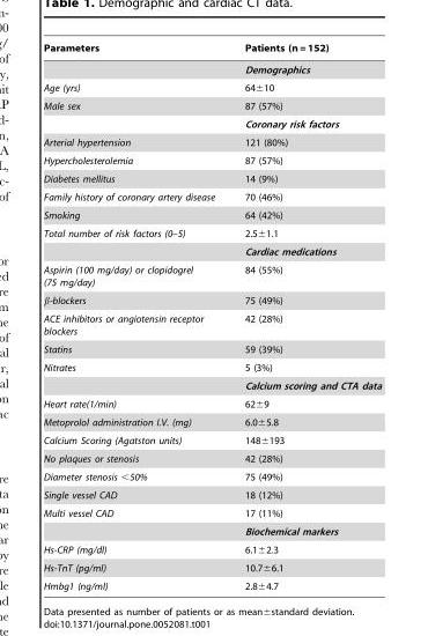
<table><thead><tr><td>Parameters</td><td>Patients (n = 152)</td></tr></thead><tbody><tr><td></td><td>Demographics</td></tr><tr><td>Age (yrs)</td><td>64±10</td></tr><tr><td rowspan="2">Male sex</td><td>87 (57%)</td></tr><tr><td>Coronary risk factors</td></tr><tr><td>Arterial hypertension</td><td>121 (80%)</td></tr><tr><td>Hypercholesterolemia</td><td>87 (57%)</td></tr><tr><td>Diabetes mellitus</td><td>14 (9%)</td></tr><tr><td>Family history of coronary artery disease</td><td>70 (46%)</td></tr><tr><td>Smoking</td><td>64 (42%)</td></tr><tr><td rowspan="2">Total number of risk factors (0–5)</td><td>2.5±1.1</td></tr><tr><td>Cardiac medications</td></tr><tr><td>Aspirin (100 mg/day) or clopidogrel (75 mg/day)</td><td>84 (55%)</td></tr><tr><td>β-blockers</td><td>75 (49%)</td></tr><tr><td>ACE inhibitors or angiotensin receptor blockers</td><td>42 (28%)</td></tr><tr><td>Statins</td><td>59 (39%)</td></tr><tr><td rowspan="2">Nitrates</td><td>5 (3%)</td></tr><tr><td>Calcium scoring and CTA data</td></tr><tr><td>Heart rate(1/min)</td><td>62±9</td></tr><tr><td>Metoprolol administration I.V. (mg)</td><td>6.0±5.8</td></tr><tr><td>Calcium Scoring (Agatston units)</td><td>148±193</td></tr><tr><td>No plaques or stenosis</td><td>42 (28%)</td></tr><tr><td>Diameter stenosis &lt;50%</td><td>75 (49%)</td></tr><tr><td>Single vessel CAD</td><td>18 (12%)</td></tr><tr><td rowspan="2">Multi vessel CAD</td><td>17 (11%)</td></tr><tr><td>Biochemical markers</td></tr><tr><td>Hs-CRP (mg/dl)</td><td>6.1±2.3</td></tr><tr><td>Hs-TnT (pg/ml)</td><td>10.7±6.1</td></tr><tr><td>Hmbg1 (ng/ml)</td><td>2.8±4.7</td></tr></tbody></table>